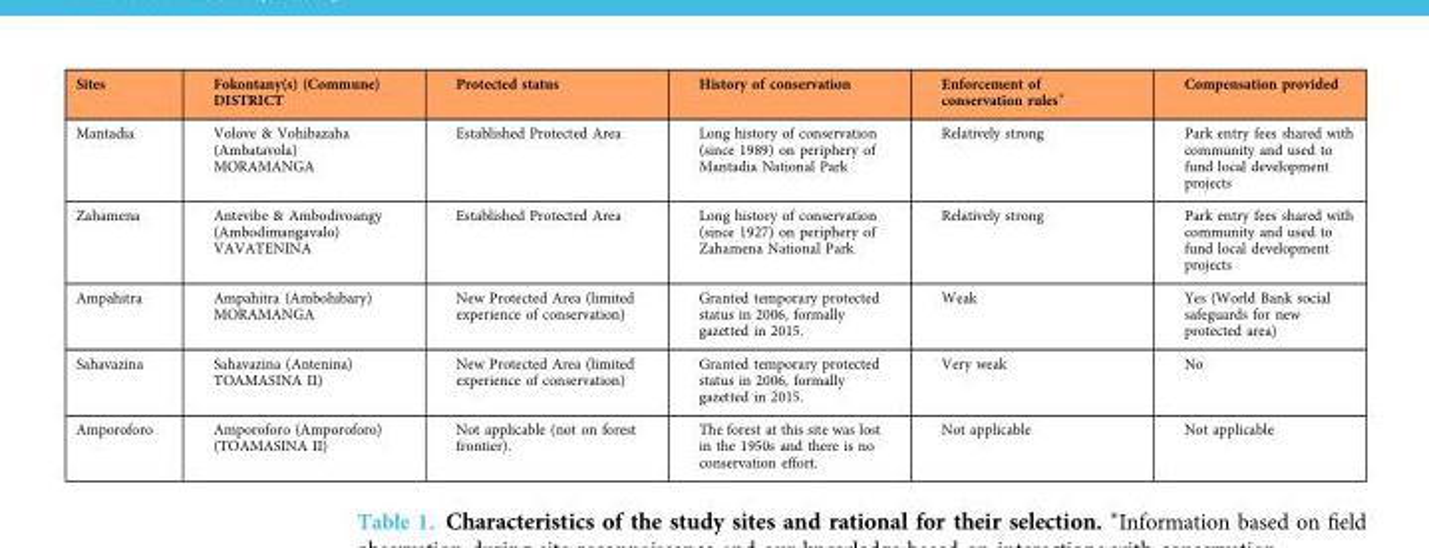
<table><thead><tr><td>Sites</td><td>Fokontany(s) (Commune) DISTRICT</td><td>Protected status</td><td>History of conservation</td><td>Enforcement of conservation rules∗</td><td>Compensation provided</td></tr></thead><tbody><tr><td>Mantadia</td><td>Volove &amp; Vohibazaha (Ambatavola) MORAMANGA</td><td>Established Protected Area</td><td>Long history of conservation (since 1989) on periphery of Mantadia National Park</td><td>Relatively strong</td><td>Park entry fees shared with community and used to fund local development projects</td></tr><tr><td>Zahamena</td><td>Antevibe &amp; Ambodivoangy (Ambodimangavalo) VAVATENINA</td><td>Established Protected Area</td><td>Long history of conservation (since 1927) on periphery of Zahamena National Park</td><td>Relatively strong</td><td>Park entry fees shared with community and used to fund local development projects</td></tr><tr><td>Ampahitra</td><td>Ampahitra (Ambohibary) MORAMANGA</td><td>New Protected Area (limited experience of conservation)</td><td>Granted temporary protected status in 2006, formally gazetted in 2015.</td><td>Weak</td><td>Yes (World Bank social safeguards for new protected area)</td></tr><tr><td>Sahavazina</td><td>Sahavazina (Antenina) TOAMASINA II)</td><td>New Protected Area (limited experience of conservation)</td><td>Granted temporary protected status in 2006, formally gazetted in 2015.</td><td>Very weak</td><td>No</td></tr><tr><td>Amporoforo</td><td>Amporoforo (Amporoforo) (TOAMASINA II)</td><td>Not applicable (not on forest frontier).</td><td>The forest at this site was lost in the 1950s and there is no conservation effort.</td><td>Not applicable</td><td>Not applicable</td></tr></tbody></table>